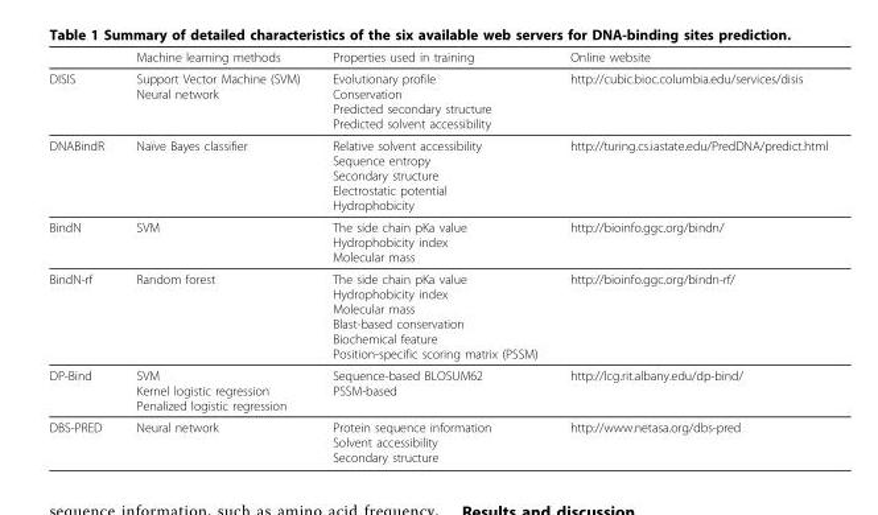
<table><thead><tr><td></td><td>Machine learning methods</td><td>Properties used in training</td><td>Online website</td></tr></thead><tbody><tr><td>DISIS</td><td>Support Vector Machine (SVM) Neural network</td><td>Evolutionary profile Conservation Predicted secondary structure Predicted solvent accessibility</td><td>http://cubic.bioc.columbia.edu/services/disis</td></tr><tr><td>DNABindR</td><td>Naïve Bayes classifier</td><td>Relative solvent accessibility Sequence entropy Secondary structure Electrostatic potential Hydrophobicity</td><td>http://turing.cs.iastate.edu/PredDNA/predict.html</td></tr><tr><td>BindN</td><td>SVM</td><td>The side chain pKa value Hydrophobicity index Molecular mass</td><td>http://bioinfo.ggc.org/bindn/</td></tr><tr><td>BindN-rf</td><td>Random forest</td><td>The side chain pKa value Hydrophobicity index Molecular mass Blast-based conservation Biochemical feature Position-specific scoring matrix (PSSM)</td><td>http://bioinfo.ggc.org/bindn-rf/</td></tr><tr><td>DP-Bind</td><td>SVM Kernel logistic regression Penalized logistic regression</td><td>Sequence-based BLOSUM62 PSSM-based</td><td>http://lcg.rit.albany.edu/dp-bind/</td></tr><tr><td>DBS-PRED</td><td>Neural network</td><td>Protein sequence information Solvent accessibility Secondary structure</td><td>http://www.netasa.org/dbs-pred</td></tr></tbody></table>